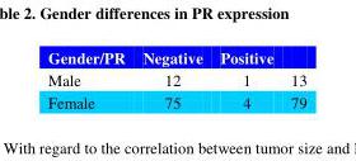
<table><thead><tr><td>Gender/PR</td><td>Negative</td><td>Positive</td><td></td></tr></thead><tbody><tr><td>Male</td><td>12</td><td>1</td><td>13</td></tr><tr><td>Female</td><td>75</td><td>4</td><td>79</td></tr></tbody></table>